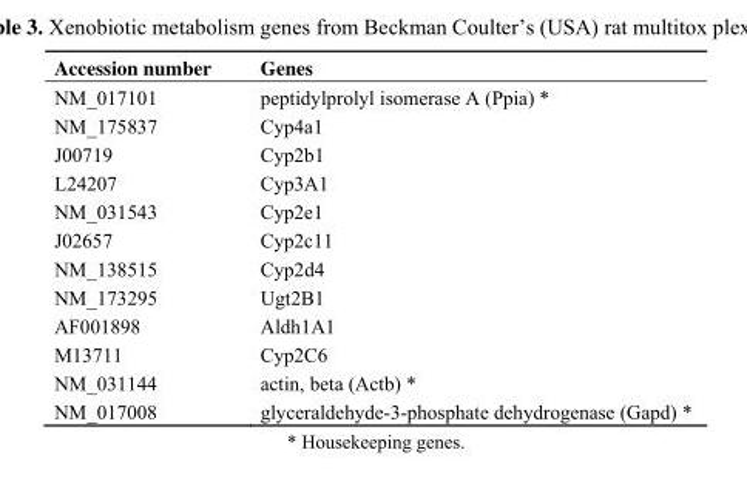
<table><thead><tr><td>Accession number</td><td>Genes</td></tr></thead><tbody><tr><td>NM_017101</td><td>peptidylprolyl isomerase A (Ppia) *</td></tr><tr><td>NM_175837</td><td>Cyp4a1</td></tr><tr><td>J00719</td><td>Cyp2b1</td></tr><tr><td>L24207</td><td>Cyp3A1</td></tr><tr><td>NM_031543</td><td>Cyp2e1</td></tr><tr><td>J02657</td><td>Cyp2c11</td></tr><tr><td>NM_138515</td><td>Cyp2d4</td></tr><tr><td>NM_173295</td><td>Ugt2B1</td></tr><tr><td>AF001898</td><td>Aldh1A1</td></tr><tr><td>M13711</td><td>Cyp2C6</td></tr><tr><td>NM_031144</td><td>actin, beta (Actb) *</td></tr><tr><td>NM_017008</td><td>glyceraldehyde-3-phosphate dehydrogenase (Gapd) *</td></tr></tbody></table>